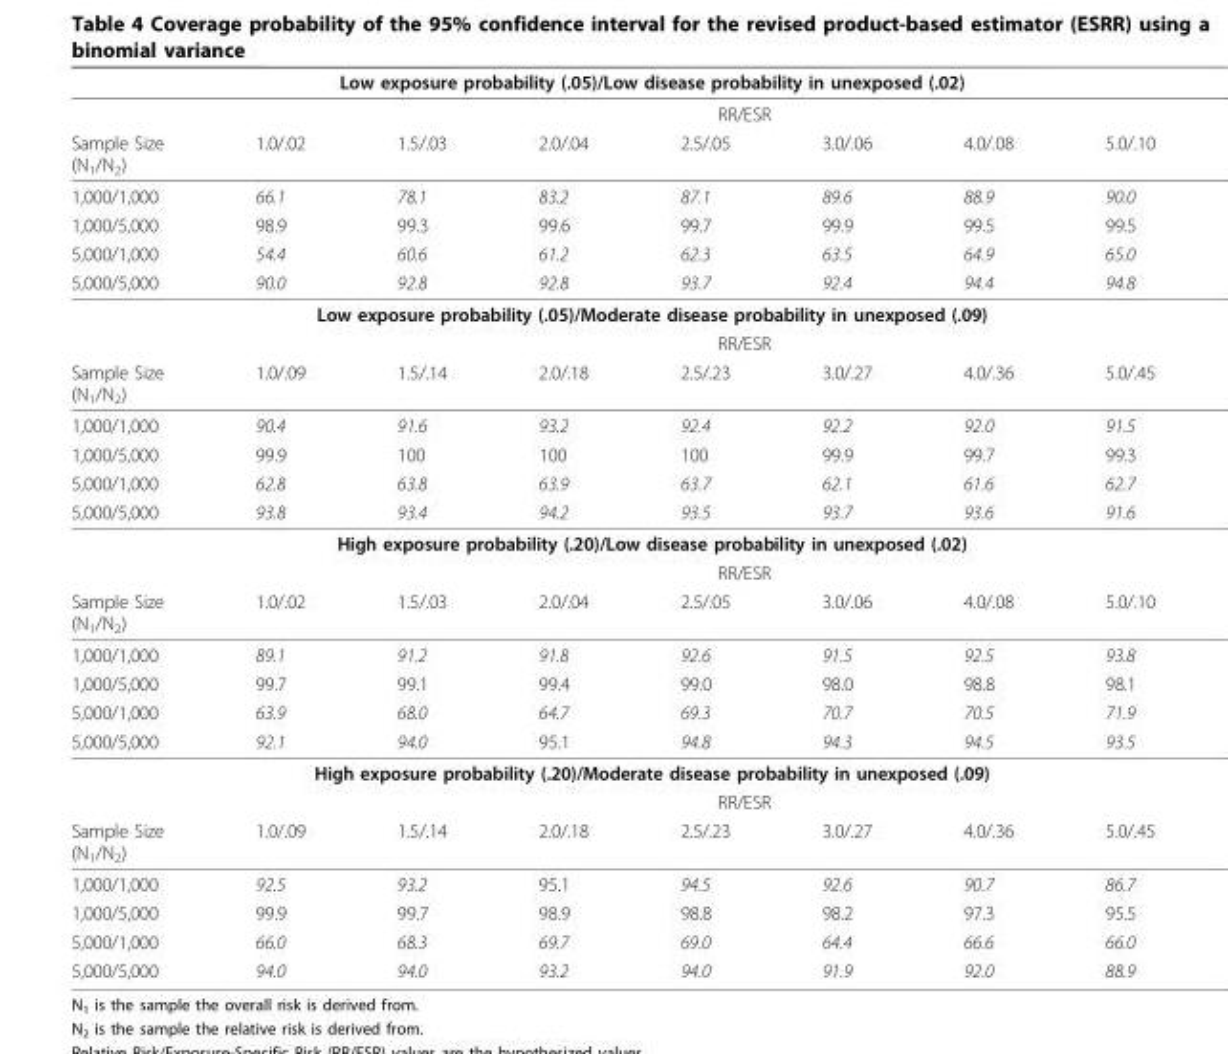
<table><thead><tr><td colspan="8">Low exposure probability (.05)/Low disease probability in unexposed (.02)</td></tr><tr><td rowspan="2">Sample Size (N<sub>1</sub>/N<sub>2</sub>)</td><td colspan="7">RR/ESR</td></tr><tr><td>1.0/.02</td><td>1.5/.03</td><td>2.0/.04</td><td>2.5/.05</td><td>3.0/.06</td><td>4.0/.08</td><td>5.0/.10</td></tr></thead><tbody><tr><td>1,000/1,000</td><td>66.1</td><td>78.1</td><td>83.2</td><td>87.1</td><td>89.6</td><td>88.9</td><td>90.0</td></tr><tr><td>1,000/5,000</td><td>98.9</td><td>99.3</td><td>99.6</td><td>99.7</td><td>99.9</td><td>99.5</td><td>99.5</td></tr><tr><td>5,000/1,000</td><td>54.4</td><td>60.6</td><td>61.2</td><td>62.3</td><td>63.5</td><td>64.9</td><td>65.0</td></tr><tr><td>5,000/5,000</td><td>90.0</td><td>92.8</td><td>92.8</td><td>93.7</td><td>92.4</td><td>94.4</td><td>94.8</td></tr><tr><td colspan="8">Low exposure probability (.05)/Moderate disease probability in unexposed (.09)</td></tr><tr><td></td><td colspan="7">RR/ESR</td></tr><tr><td>Sample Size (N<sub>1</sub>/N<sub>2</sub>)</td><td>1.0/.09</td><td>1.5/.14</td><td>2.0/.18</td><td>2.5/.23</td><td>3.0/.27</td><td>4.0/.36</td><td>5.0/.45</td></tr><tr><td>1,000/1,000</td><td>90.4</td><td>91.6</td><td>93.2</td><td>92.4</td><td>92.2</td><td>92.0</td><td>91.5</td></tr><tr><td>1,000/5,000</td><td>99.9</td><td>100</td><td>100</td><td>100</td><td>99.9</td><td>99.7</td><td>99.3</td></tr><tr><td>5,000/1,000</td><td>62.8</td><td>63.8</td><td>63.9</td><td>63.7</td><td>62.1</td><td>61.6</td><td>62.7</td></tr><tr><td>5,000/5,000</td><td>93.8</td><td>93.4</td><td>94.2</td><td>93.5</td><td>93.7</td><td>93.6</td><td>91.6</td></tr><tr><td colspan="8">High exposure probability (.20)/Low disease probability in unexposed (.02)</td></tr><tr><td></td><td colspan="7">RR/ESR</td></tr><tr><td>Sample Size (N<sub>1</sub>/N<sub>2</sub>)</td><td>1.0/.02</td><td>1.5/.03</td><td>2.0/.04</td><td>2.5/.05</td><td>3.0/.06</td><td>4.0/.08</td><td>5.0/.10</td></tr><tr><td>1,000/1,000</td><td>89.1</td><td>91.2</td><td>91.8</td><td>92.6</td><td>91.5</td><td>92.5</td><td>93.8</td></tr><tr><td>1,000/5,000</td><td>99.7</td><td>99.1</td><td>99.4</td><td>99.0</td><td>98.0</td><td>98.8</td><td>98.1</td></tr><tr><td>5,000/1,000</td><td>63.9</td><td>68.0</td><td>64.7</td><td>69.3</td><td>70.7</td><td>70.5</td><td>71.9</td></tr><tr><td>5,000/5,000</td><td>92.1</td><td>94.0</td><td>95.1</td><td>94.8</td><td>94.3</td><td>94.5</td><td>93.5</td></tr><tr><td colspan="8">High exposure probability (.20)/Moderate disease probability in unexposed (.09)</td></tr><tr><td></td><td colspan="7">RR/ESR</td></tr><tr><td>Sample Size (N<sub>1</sub>/N<sub>2</sub>)</td><td>1.0/.09</td><td>1.5/.14</td><td>2.0/.18</td><td>2.5/.23</td><td>3.0/.27</td><td>4.0/.36</td><td>5.0/.45</td></tr><tr><td>1,000/1,000</td><td>92.5</td><td>93.2</td><td>95.1</td><td>94.5</td><td>92.6</td><td>90.7</td><td>86.7</td></tr><tr><td>1,000/5,000</td><td>99.9</td><td>99.7</td><td>98.9</td><td>98.8</td><td>98.2</td><td>97.3</td><td>95.5</td></tr><tr><td>5,000/1,000</td><td>66.0</td><td>68.3</td><td>69.7</td><td>69.0</td><td>64.4</td><td>66.6</td><td>66.0</td></tr><tr><td>5,000/5,000</td><td>94.0</td><td>94.0</td><td>93.2</td><td>94.0</td><td>91.9</td><td>92.0</td><td>88.9</td></tr></tbody></table>